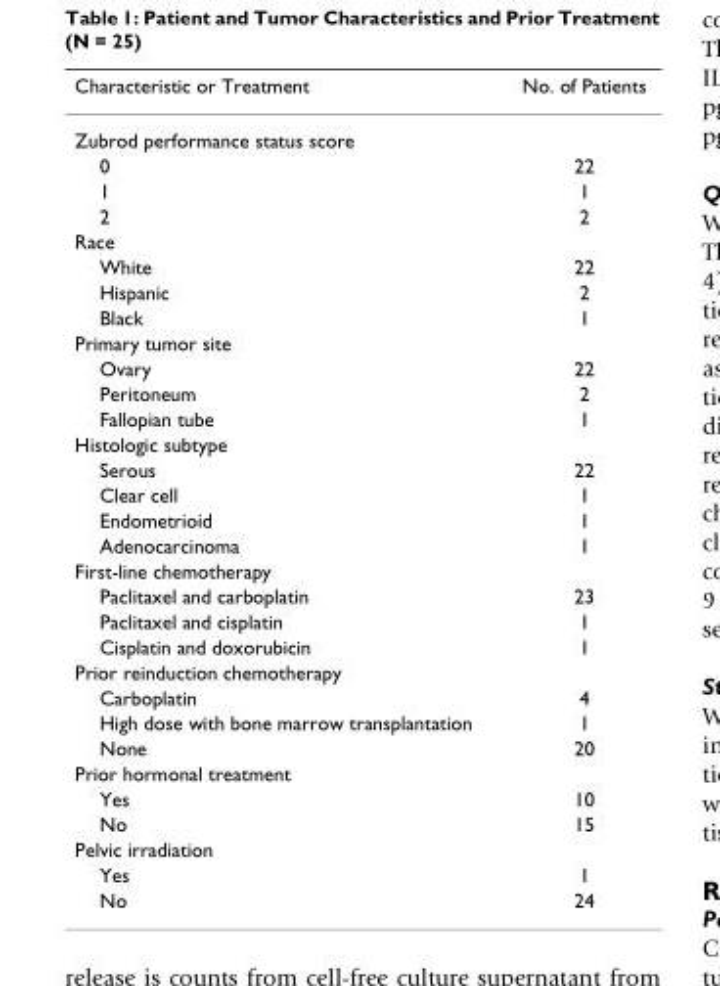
<table><thead><tr><td>Characteristic or Treatment</td><td>No. of Patients</td></tr></thead><tbody><tr><td colspan="2">Zubrod performance status score</td></tr><tr><td>0</td><td>22</td></tr><tr><td>1</td><td>1</td></tr><tr><td>2</td><td>2</td></tr><tr><td colspan="2">Race</td></tr><tr><td>White</td><td>22</td></tr><tr><td>Hispanic</td><td>2</td></tr><tr><td>Black</td><td>1</td></tr><tr><td colspan="2">Primary tumor site</td></tr><tr><td>Ovary</td><td>22</td></tr><tr><td>Peritoneum</td><td>2</td></tr><tr><td>Fallopian tube</td><td>1</td></tr><tr><td colspan="2">Histologic subtype</td></tr><tr><td>Serous</td><td>22</td></tr><tr><td>Clear cell</td><td>1</td></tr><tr><td>Endometrioid</td><td>1</td></tr><tr><td>Adenocarcinoma</td><td>1</td></tr><tr><td colspan="2">First-line chemotherapy</td></tr><tr><td>Paclitaxel and carboplatin</td><td>23</td></tr><tr><td>Paclitaxel and cisplatin</td><td>1</td></tr><tr><td>Cisplatin and doxorubicin</td><td>1</td></tr><tr><td colspan="2">Prior reinduction chemotherapy</td></tr><tr><td>Carboplatin</td><td>4</td></tr><tr><td>High dose with bone marrow transplantation</td><td>1</td></tr><tr><td>None</td><td>20</td></tr><tr><td colspan="2">Prior hormonal treatment</td></tr><tr><td>Yes</td><td>10</td></tr><tr><td>No</td><td>15</td></tr><tr><td colspan="2">Pelvic irradiation</td></tr><tr><td>Yes</td><td>1</td></tr><tr><td>No</td><td>24</td></tr></tbody></table>